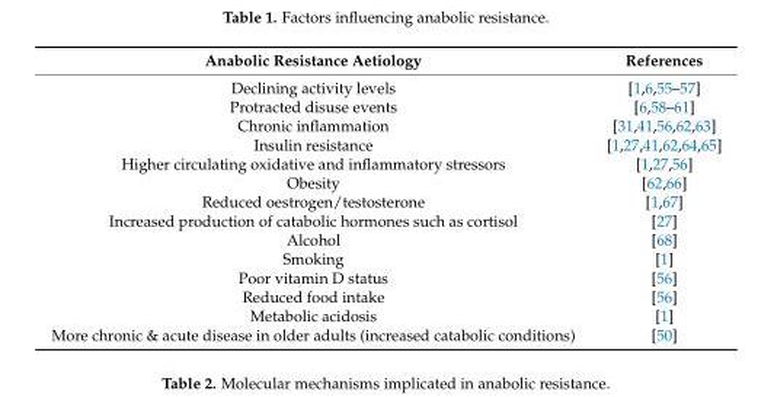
<table><thead><tr><td>Anabolic Resistance Aetiology</td><td>References</td></tr></thead><tbody><tr><td>Declining activity levels</td><td>[1,6,55–57]</td></tr><tr><td>Protracted disuse events</td><td>[6,58–61]</td></tr><tr><td>Chronic inflammation</td><td>[31,41,56,62,63]</td></tr><tr><td>Insulin resistance</td><td>[1,27,41,62,64,65]</td></tr><tr><td>Higher circulating oxidative and inflammatory stressors</td><td>[1,27,56]</td></tr><tr><td>Obesity</td><td>[62,66]</td></tr><tr><td>Reduced oestrogen/testosterone</td><td>[1,67]</td></tr><tr><td>Increased production of catabolic hormones such as cortisol</td><td>[27]</td></tr><tr><td>Alcohol</td><td>[68]</td></tr><tr><td>Smoking</td><td>[1]</td></tr><tr><td>Poor vitamin D status</td><td>[56]</td></tr><tr><td>Reduced food intake</td><td>[56]</td></tr><tr><td>Metabolic acidosis</td><td>[1]</td></tr><tr><td>More chronic &amp; acute disease in older adults (increased catabolic conditions)</td><td>[50]</td></tr></tbody></table>